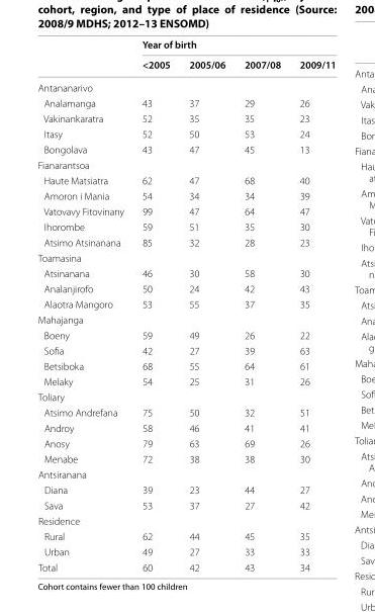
<table><thead><tr><td rowspan="2"></td><td colspan="4">Year of birth</td></tr><tr><td>&lt;2005</td><td>2005/06</td><td>2007/08</td><td>2009/11</td></tr></thead><tbody><tr><td colspan="5">Antananarivo</td></tr><tr><td>Analamanga</td><td>43</td><td>37</td><td>29</td><td>26</td></tr><tr><td>Vakinankaratra</td><td>52</td><td>35</td><td>35</td><td>23</td></tr><tr><td>Itasy</td><td>52</td><td>50</td><td>53</td><td>24</td></tr><tr><td>Bongolava</td><td>43</td><td>47</td><td>45</td><td>13</td></tr><tr><td colspan="5">Fianarantsoa</td></tr><tr><td>Haute Matsiatra</td><td>62</td><td>47</td><td>68</td><td>40</td></tr><tr><td>Amoron i Mania</td><td>54</td><td>34</td><td>34</td><td>39</td></tr><tr><td>Vatovavy Fitovinany</td><td>99</td><td>47</td><td>64</td><td>47</td></tr><tr><td>Ihorombe</td><td>59</td><td>51</td><td>35</td><td>30</td></tr><tr><td>Atsimo Atsinanana</td><td>85</td><td>32</td><td>28</td><td>23</td></tr><tr><td colspan="5">Toamasina</td></tr><tr><td>Atsinanana</td><td>46</td><td>30</td><td>58</td><td>30</td></tr><tr><td>Analanjirofo</td><td>50</td><td>24</td><td>42</td><td>43</td></tr><tr><td>Alaotra Mangoro</td><td>53</td><td>55</td><td>37</td><td>35</td></tr><tr><td colspan="5">Mahajanga</td></tr><tr><td>Boeny</td><td>59</td><td>49</td><td>26</td><td>22</td></tr><tr><td>Sofia</td><td>42</td><td>27</td><td>39</td><td>63</td></tr><tr><td>Betsiboka</td><td>68</td><td>55</td><td>64</td><td>61</td></tr><tr><td>Melaky</td><td>54</td><td>25</td><td>31</td><td>26</td></tr><tr><td colspan="5">Toliary</td></tr><tr><td>Atsimo Andrefana</td><td>75</td><td>50</td><td>32</td><td>51</td></tr><tr><td>Androy</td><td>58</td><td>46</td><td>41</td><td>41</td></tr><tr><td>Anosy</td><td>79</td><td>63</td><td>69</td><td>26</td></tr><tr><td>Menabe</td><td>72</td><td>38</td><td>38</td><td>30</td></tr><tr><td colspan="5">Antsiranana</td></tr><tr><td>Diana</td><td>39</td><td>23</td><td>44</td><td>27</td></tr><tr><td>Sava</td><td>53</td><td>37</td><td>27</td><td>42</td></tr><tr><td colspan="5">Residence</td></tr><tr><td>Rural</td><td>62</td><td>44</td><td>45</td><td>35</td></tr><tr><td>Urban</td><td>49</td><td>27</td><td>33</td><td>33</td></tr><tr><td>Total</td><td>60</td><td>42</td><td>43</td><td>34</td></tr></tbody></table>